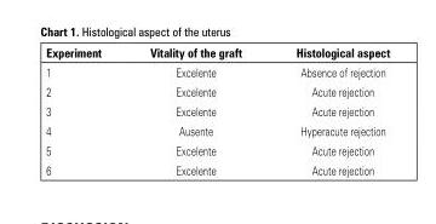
<table><thead><tr><td>Experiment</td><td>Vitality of the graft</td><td>Histological aspect</td></tr></thead><tbody><tr><td>1</td><td>Excelente</td><td>Absence of rejection</td></tr><tr><td>2</td><td>Excelente</td><td>Acute rejection</td></tr><tr><td>3</td><td>Excelente</td><td>Acute rejection</td></tr><tr><td>4</td><td>Ausente</td><td>Hyperacute rejection</td></tr><tr><td>5</td><td>Excelente</td><td>Acute rejection</td></tr><tr><td>6</td><td>Excelente</td><td>Acute rejection</td></tr></tbody></table>